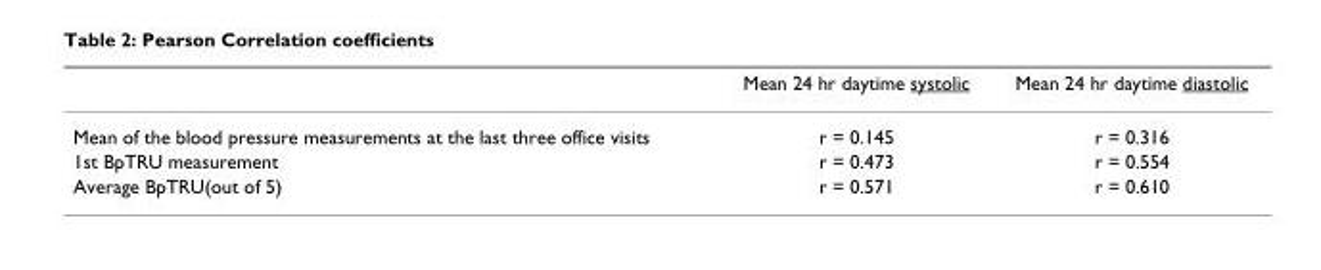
<table><thead><tr><td></td><td>Mean 24 hr daytime systolic</td><td>Mean 24 hr daytime diastolic</td></tr></thead><tbody><tr><td>Mean of the blood pressure measurements at the last three office visits</td><td>r = 0.145</td><td>r = 0.316</td></tr><tr><td>1st BpTRU measurement</td><td>r = 0.473</td><td>r = 0.554</td></tr><tr><td>Average BpTRU(out of 5)</td><td>r = 0.571</td><td>r = 0.610</td></tr></tbody></table>